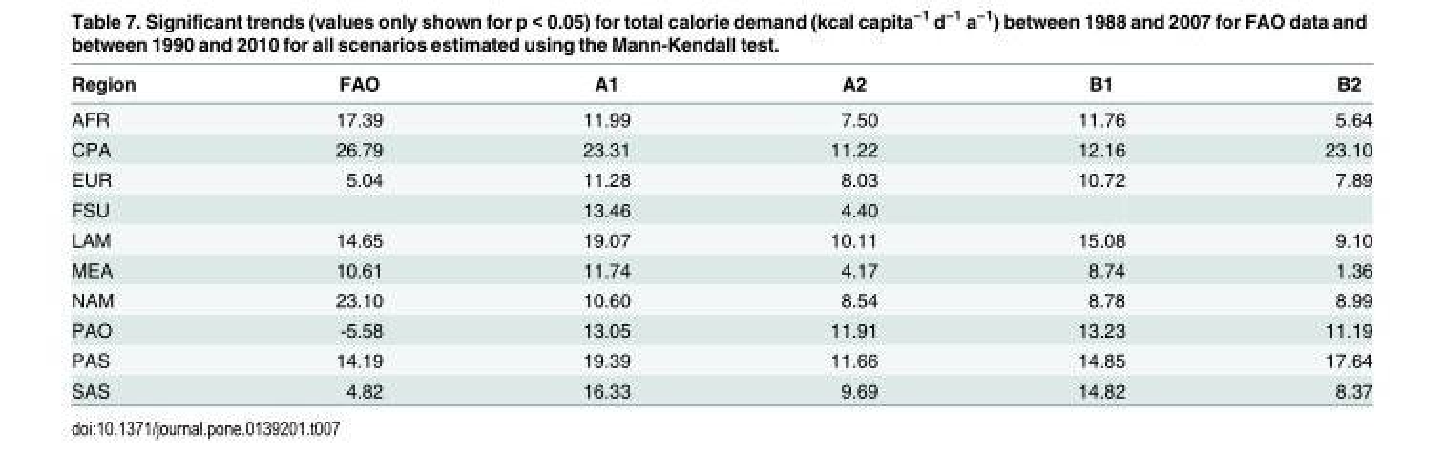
<table><thead><tr><td>Region</td><td>FAO</td><td>A1</td><td>A2</td><td>B1</td><td>B2</td></tr></thead><tbody><tr><td>AFR</td><td>17.39</td><td>11.99</td><td>7.50</td><td>11.76</td><td>5.64</td></tr><tr><td>CPA</td><td>26.79</td><td>23.31</td><td>11.22</td><td>12.16</td><td>23.10</td></tr><tr><td>EUR</td><td>5.04</td><td>11.28</td><td>8.03</td><td>10.72</td><td>7.89</td></tr><tr><td>FSU</td><td></td><td>13.46</td><td>4.40</td><td></td><td></td></tr><tr><td>LAM</td><td>14.65</td><td>19.07</td><td>10.11</td><td>15.08</td><td>9.10</td></tr><tr><td>MEA</td><td>10.61</td><td>11.74</td><td>4.17</td><td>8.74</td><td>1.36</td></tr><tr><td>NAM</td><td>23.10</td><td>10.60</td><td>8.54</td><td>8.78</td><td>8.99</td></tr><tr><td>PAO</td><td>-5.58</td><td>13.05</td><td>11.91</td><td>13.23</td><td>11.19</td></tr><tr><td>PAS</td><td>14.19</td><td>19.39</td><td>11.66</td><td>14.85</td><td>17.64</td></tr><tr><td>SAS</td><td>4.82</td><td>16.33</td><td>9.69</td><td>14.82</td><td>8.37</td></tr></tbody></table>